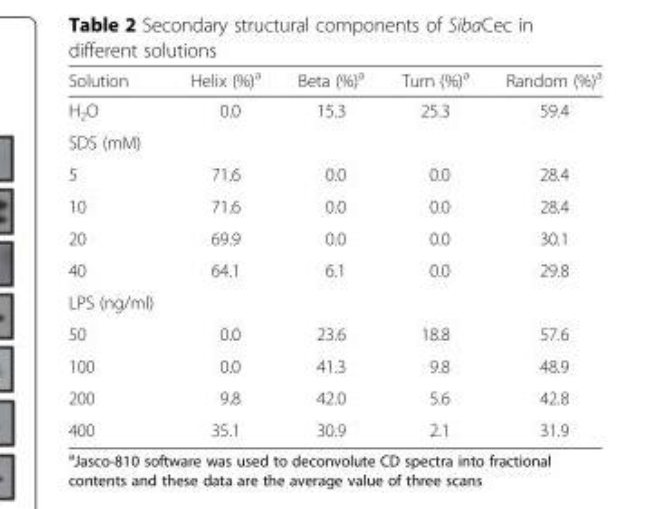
<table><thead><tr><td>Solution</td><td>Helix (%)<sup>a</sup></td><td>Beta (%)<sup>a</sup></td><td>Turn (%)<sup>a</sup></td><td>Random (%)<sup>a</sup></td></tr></thead><tbody><tr><td>H<sub>2</sub>O</td><td>0.0</td><td>15.3</td><td>25.3</td><td>59.4</td></tr><tr><td colspan="5">SDS (mM)</td></tr><tr><td>5</td><td>71.6</td><td>0.0</td><td>0.0</td><td>28.4</td></tr><tr><td>10</td><td>71.6</td><td>0.0</td><td>0.0</td><td>28.4</td></tr><tr><td>20</td><td>69.9</td><td>0.0</td><td>0.0</td><td>30.1</td></tr><tr><td>40</td><td>64.1</td><td>6.1</td><td>0.0</td><td>29.8</td></tr><tr><td colspan="5">LPS (ng/ml)</td></tr><tr><td>50</td><td>0.0</td><td>23.6</td><td>18.8</td><td>57.6</td></tr><tr><td>100</td><td>0.0</td><td>41.3</td><td>9.8</td><td>48.9</td></tr><tr><td>200</td><td>9.8</td><td>42.0</td><td>5.6</td><td>42.8</td></tr><tr><td>400</td><td>35.1</td><td>30.9</td><td>2.1</td><td>31.9</td></tr></tbody></table>